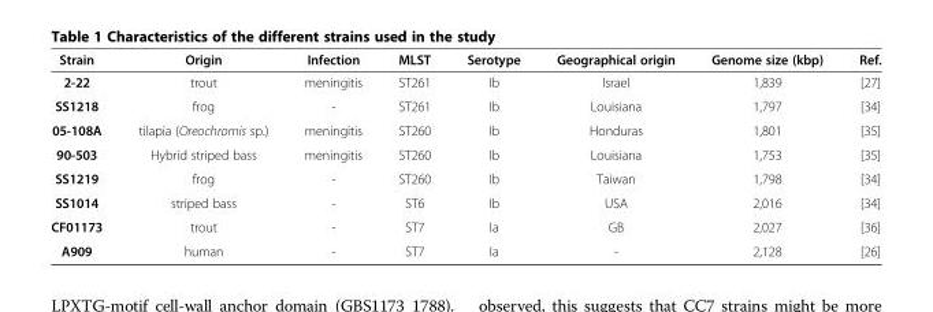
<table><thead><tr><td>Strain</td><td>Origin</td><td>Infection</td><td>MLST</td><td>Serotype</td><td>Geographical origin</td><td>Genome size (kbp)</td><td>Ref.</td></tr></thead><tbody><tr><td>2-22</td><td>trout</td><td>meningitis</td><td>ST261</td><td>Ib</td><td>Israel</td><td>1,839</td><td>[27]</td></tr><tr><td>SS1218</td><td>frog</td><td>-</td><td>ST261</td><td>Ib</td><td>Louisiana</td><td>1,797</td><td>[34]</td></tr><tr><td>05-108A</td><td>tilapia (Oreochromis sp.)</td><td>meningitis</td><td>ST260</td><td>Ib</td><td>Honduras</td><td>1,801</td><td>[35]</td></tr><tr><td>90-503</td><td>Hybrid striped bass</td><td>meningitis</td><td>ST260</td><td>Ib</td><td>Louisiana</td><td>1,753</td><td>[35]</td></tr><tr><td>SS1219</td><td>frog</td><td>-</td><td>ST260</td><td>Ib</td><td>Taiwan</td><td>1,798</td><td>[34]</td></tr><tr><td>SS1014</td><td>striped bass</td><td>-</td><td>ST6</td><td>Ib</td><td>USA</td><td>2,016</td><td>[34]</td></tr><tr><td>CF01173</td><td>trout</td><td>-</td><td>ST7</td><td>Ia</td><td>GB</td><td>2,027</td><td>[36]</td></tr><tr><td>A909</td><td>human</td><td>-</td><td>ST7</td><td>Ia</td><td>-</td><td>2,128</td><td>[26]</td></tr></tbody></table>